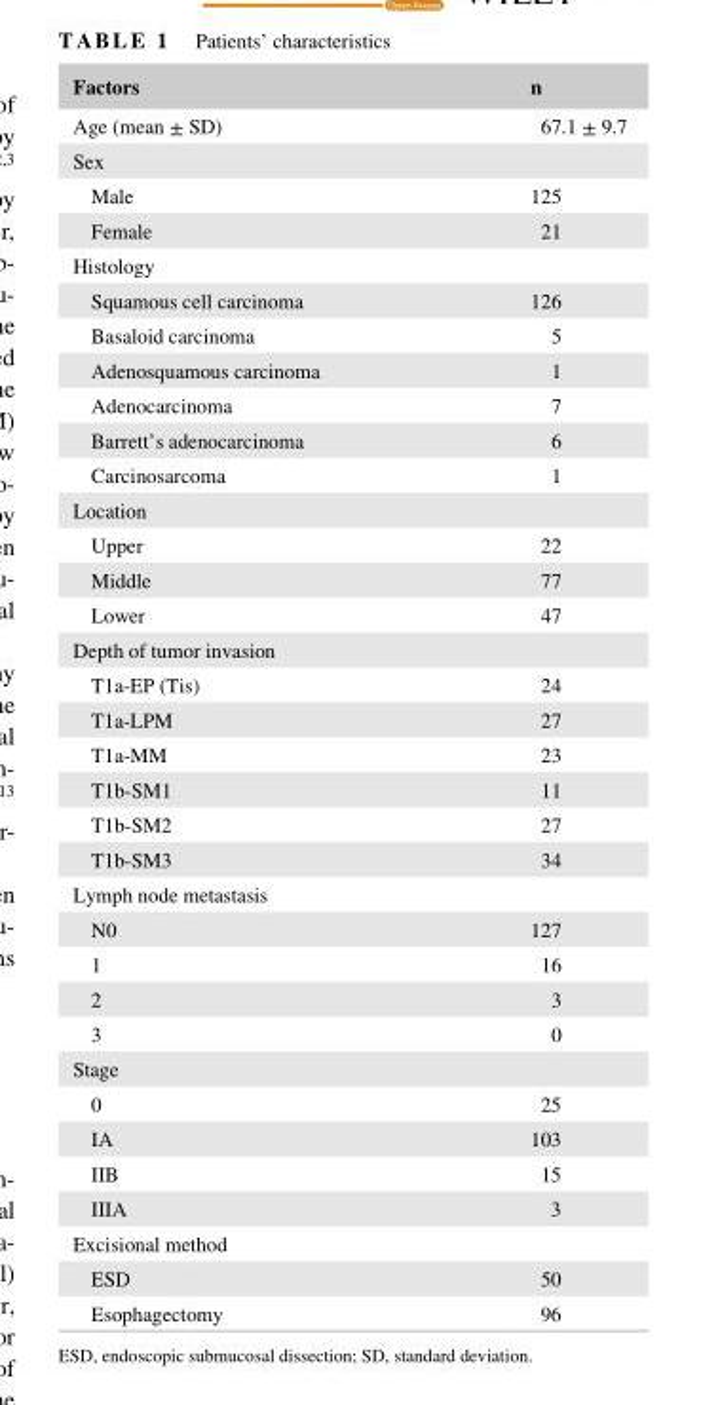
<table><thead><tr><td>Factors</td><td>n</td></tr></thead><tbody><tr><td>Age (mean ± SD)</td><td>67.1 ± 9.7</td></tr><tr><td colspan="2">Sex</td></tr><tr><td>Male</td><td>125</td></tr><tr><td>Female</td><td>21</td></tr><tr><td colspan="2">Histology</td></tr><tr><td>Squamous cell carcinoma</td><td>126</td></tr><tr><td>Basaloid carcinoma</td><td>5</td></tr><tr><td>Adenosquamous carcinoma</td><td>1</td></tr><tr><td>Adenocarcinoma</td><td>7</td></tr><tr><td>Barrett’s adenocarcinoma</td><td>6</td></tr><tr><td>Carcinosarcoma</td><td>1</td></tr><tr><td colspan="2">Location</td></tr><tr><td>Upper</td><td>22</td></tr><tr><td>Middle</td><td>77</td></tr><tr><td>Lower</td><td>47</td></tr><tr><td colspan="2">Depth of tumor invasion</td></tr><tr><td>T1a- EP (Tis)</td><td>24</td></tr><tr><td>T1a- LPM</td><td>27</td></tr><tr><td>T1a- MM</td><td>23</td></tr><tr><td>T1b- SM1</td><td>11</td></tr><tr><td>T1b- SM2</td><td>27</td></tr><tr><td>T1b- SM3</td><td>34</td></tr><tr><td colspan="2">Lymph node metastasis</td></tr><tr><td>N0</td><td>127</td></tr><tr><td>1</td><td>16</td></tr><tr><td>2</td><td>3</td></tr><tr><td>3</td><td>0</td></tr><tr><td colspan="2">Stage</td></tr><tr><td>0</td><td>25</td></tr><tr><td>IA</td><td>103</td></tr><tr><td>IIB</td><td>15</td></tr><tr><td>IIIA</td><td>3</td></tr><tr><td colspan="2">Excisional method</td></tr><tr><td>ESD</td><td>50</td></tr><tr><td>Esophagectomy</td><td>96</td></tr></tbody></table>